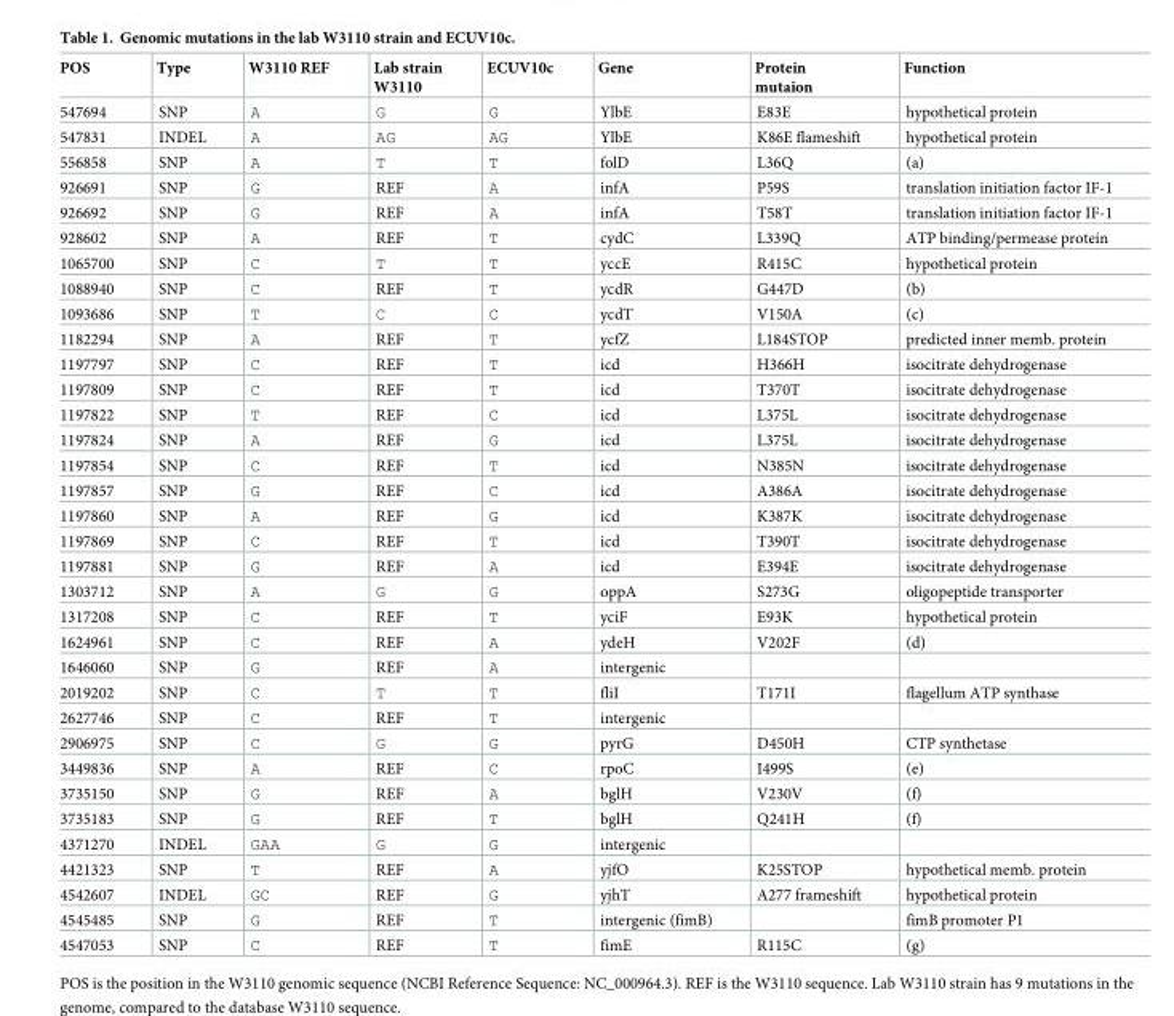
<table><thead><tr><td>POS</td><td>Type</td><td>W3110 REF</td><td>Lab strain W3110</td><td>ECUV10c</td><td>Gene</td><td>Protein mutaion</td><td>Function</td></tr></thead><tbody><tr><td>547694</td><td>SNP</td><td>A</td><td>G</td><td>G</td><td>YlbE</td><td>E83E</td><td>hypothetical protein</td></tr><tr><td>547831</td><td>INDEL</td><td>A</td><td>AG</td><td>AG</td><td>YlbE</td><td>K86E flameshift</td><td>hypothetical protein</td></tr><tr><td>556858</td><td>SNP</td><td>A</td><td>T</td><td>T</td><td>folD</td><td>L36Q</td><td>(a)</td></tr><tr><td>926691</td><td>SNP</td><td>G</td><td>REF</td><td>A</td><td>infA</td><td>P59S</td><td>translation initiation factor IF-1</td></tr><tr><td>926692</td><td>SNP</td><td>G</td><td>REF</td><td>A</td><td>infA</td><td>T58T</td><td>translation initiation factor IF-1</td></tr><tr><td>928602</td><td>SNP</td><td>A</td><td>REF</td><td>T</td><td>cydC</td><td>L339Q</td><td>ATP binding/permease protein</td></tr><tr><td>1065700</td><td>SNP</td><td>C</td><td>T</td><td>T</td><td>yccE</td><td>R415C</td><td>hypothetical protein</td></tr><tr><td>1088940</td><td>SNP</td><td>C</td><td>REF</td><td>T</td><td>ycdR</td><td>G447D</td><td>(b)</td></tr><tr><td>1093686</td><td>SNP</td><td>T</td><td>C</td><td>C</td><td>ycdT</td><td>V150A</td><td>(c)</td></tr><tr><td>1182294</td><td>SNP</td><td>A</td><td>REF</td><td>T</td><td>ycfZ</td><td>L184STOP</td><td>predicted inner memb. protein</td></tr><tr><td>1197797</td><td>SNP</td><td>C</td><td>REF</td><td>T</td><td>icd</td><td>H366H</td><td>isocitrate dehydrogenase</td></tr><tr><td>1197809</td><td>SNP</td><td>C</td><td>REF</td><td>T</td><td>icd</td><td>T370T</td><td>isocitrate dehydrogenase</td></tr><tr><td>1197822</td><td>SNP</td><td>T</td><td>REF</td><td>C</td><td>icd</td><td>L375L</td><td>isocitrate dehydrogenase</td></tr><tr><td>1197824</td><td>SNP</td><td>A</td><td>REF</td><td>G</td><td>icd</td><td>L375L</td><td>isocitrate dehydrogenase</td></tr><tr><td>1197854</td><td>SNP</td><td>C</td><td>REF</td><td>T</td><td>icd</td><td>N385N</td><td>isocitrate dehydrogenase</td></tr><tr><td>1197857</td><td>SNP</td><td>G</td><td>REF</td><td>C</td><td>icd</td><td>A386A</td><td>isocitrate dehydrogenase</td></tr><tr><td>1197860</td><td>SNP</td><td>A</td><td>REF</td><td>G</td><td>icd</td><td>K387K</td><td>isocitrate dehydrogenase</td></tr><tr><td>1197869</td><td>SNP</td><td>C</td><td>REF</td><td>T</td><td>icd</td><td>T390T</td><td>isocitrate dehydrogenase</td></tr><tr><td>1197881</td><td>SNP</td><td>G</td><td>REF</td><td>A</td><td>icd</td><td>E394E</td><td>isocitrate dehydrogenase</td></tr><tr><td>1303712</td><td>SNP</td><td>A</td><td>G</td><td>G</td><td>oppA</td><td>S273G</td><td>oligopeptide transporter</td></tr><tr><td>1317208</td><td>SNP</td><td>C</td><td>REF</td><td>T</td><td>yciF</td><td>E93K</td><td>hypothetical protein</td></tr><tr><td>1624961</td><td>SNP</td><td>C</td><td>REF</td><td>A</td><td>ydeH</td><td>V202F</td><td>(d)</td></tr><tr><td>1646060</td><td>SNP</td><td>G</td><td>REF</td><td>A</td><td>intergenic</td><td></td><td></td></tr><tr><td>2019202</td><td>SNP</td><td>C</td><td>T</td><td>T</td><td>fliI</td><td>T171I</td><td>flagellum ATP synthase</td></tr><tr><td>2627746</td><td>SNP</td><td>C</td><td>REF</td><td>T</td><td>intergenic</td><td></td><td></td></tr><tr><td>2906975</td><td>SNP</td><td>C</td><td>G</td><td>G</td><td>pyrG</td><td>D450H</td><td>CTP synthetase</td></tr><tr><td>3449836</td><td>SNP</td><td>A</td><td>REF</td><td>C</td><td>rpoC</td><td>I499S</td><td>(e)</td></tr><tr><td>3735150</td><td>SNP</td><td>G</td><td>REF</td><td>A</td><td>bglH</td><td>V230V</td><td>(f)</td></tr><tr><td>3735183</td><td>SNP</td><td>G</td><td>REF</td><td>T</td><td>bglH</td><td>Q241H</td><td>(f)</td></tr><tr><td>4371270</td><td>INDEL</td><td>GAA</td><td>G</td><td>G</td><td>intergenic</td><td></td><td></td></tr><tr><td>4421323</td><td>SNP</td><td>T</td><td>REF</td><td>A</td><td>yjfO</td><td>K25STOP</td><td>hypothetical memb. protein</td></tr><tr><td>4542607</td><td>INDEL</td><td>GC</td><td>REF</td><td>G</td><td>yjhT</td><td>A277 frameshift</td><td>hypothetical protein</td></tr><tr><td>4545485</td><td>SNP</td><td>G</td><td>REF</td><td>T</td><td>intergenic (fimB)</td><td></td><td>fimB promoter P1</td></tr><tr><td>4547053</td><td>SNP</td><td>C</td><td>REF</td><td>T</td><td>fimE</td><td>R115C</td><td>(g)</td></tr></tbody></table>